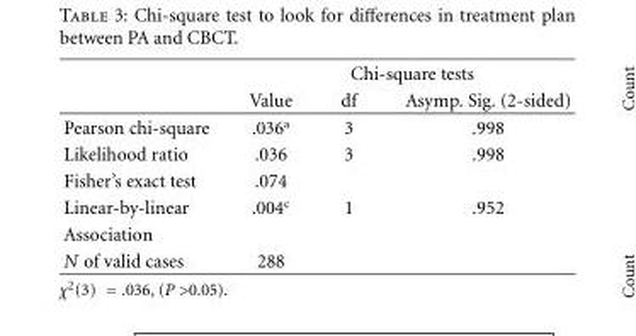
<table><thead><tr><td rowspan="2"></td><td colspan="3">Chi-square tests</td></tr><tr><td>Value</td><td>df</td><td>Asymp. Sig. (2-sided)</td></tr></thead><tbody><tr><td>Pearson chi-square</td><td>.036<sup>a</sup></td><td>3</td><td>.998</td></tr><tr><td>Likelihood ratio</td><td>.036</td><td>3</td><td>.998</td></tr><tr><td>Fisher’s exact test</td><td>.074</td><td></td><td></td></tr><tr><td>Linear-by-linear</td><td>.004<sup>c</sup></td><td>1</td><td>.952</td></tr><tr><td colspan="4">Association</td></tr><tr><td>N of valid cases</td><td>288</td><td></td><td></td></tr></tbody></table>